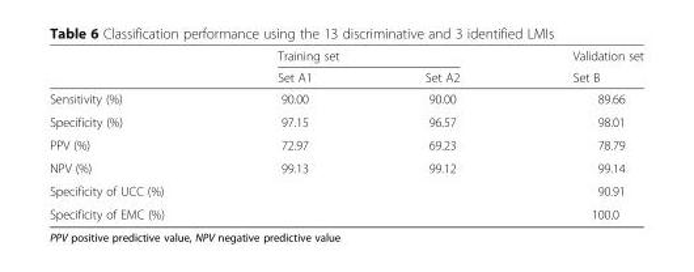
<table><thead><tr><td rowspan="2"></td><td colspan="2">Training set</td><td rowspan="2">Validation set Set B</td></tr><tr><td>Set A1</td><td>Set A2</td></tr></thead><tbody><tr><td>Sensitivity (%)</td><td>90.00</td><td>90.00</td><td>89.66</td></tr><tr><td>Specificity (%)</td><td>97.15</td><td>96.57</td><td>98.01</td></tr><tr><td>PPV (%)</td><td>72.97</td><td>69.23</td><td>78.79</td></tr><tr><td>NPV (%)</td><td>99.13</td><td>99.12</td><td>99.14</td></tr><tr><td>Specificity of UCC (%)</td><td></td><td></td><td>90.91</td></tr><tr><td>Specificity of EMC (%)</td><td></td><td></td><td>100.0</td></tr></tbody></table>